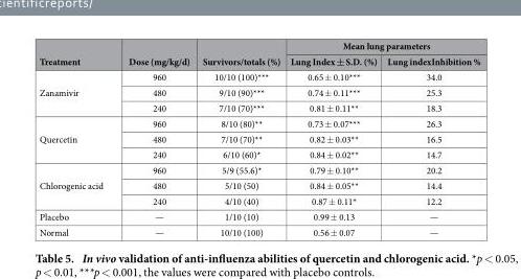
<table><thead><tr><td rowspan="2">Treatment</td><td rowspan="2">Dose (mg/kg/d)</td><td rowspan="2">Survivors/totals (%)</td><td colspan="2">Mean lung parameters</td></tr><tr><td>Lung Index ± S.D. (%)</td><td>Lung indexInhibition %</td></tr></thead><tbody><tr><td rowspan="3">Zanamivir</td><td>960</td><td>10/10 (100)***</td><td>0.65 ± 0.10***</td><td>34.0</td></tr><tr><td>480</td><td>9/10 (90)***</td><td>0.74 ± 0.11***</td><td>25.3</td></tr><tr><td>240</td><td>7/10 (70)***</td><td>0.81 ± 0.11**</td><td>18.3</td></tr><tr><td rowspan="3">Quercetin</td><td>960</td><td>8/10 (80)**</td><td>0.73 ± 0.07***</td><td>26.3</td></tr><tr><td>480</td><td>7/10 (70)**</td><td>0.82 ± 0.03**</td><td>16.5</td></tr><tr><td>240</td><td>6/10 (60)*</td><td>0.84 ± 0.02**</td><td>14.7</td></tr><tr><td rowspan="3">Chlorogenic acid</td><td>960</td><td>5/9 (55.6)*</td><td>0.79 ± 0.10**</td><td>20.2</td></tr><tr><td>480</td><td>5/10 (50)</td><td>0.84 ± 0.05**</td><td>14.4</td></tr><tr><td>240</td><td>4/10 (40)</td><td>0.87 ± 0.11*</td><td>12.2</td></tr><tr><td>Placebo</td><td>—</td><td>1/10 (10)</td><td>0.99 ± 0.13</td><td>—</td></tr><tr><td>Normal</td><td>—</td><td>10/10 (100)</td><td>0.56 ± 0.07</td><td>—</td></tr></tbody></table>